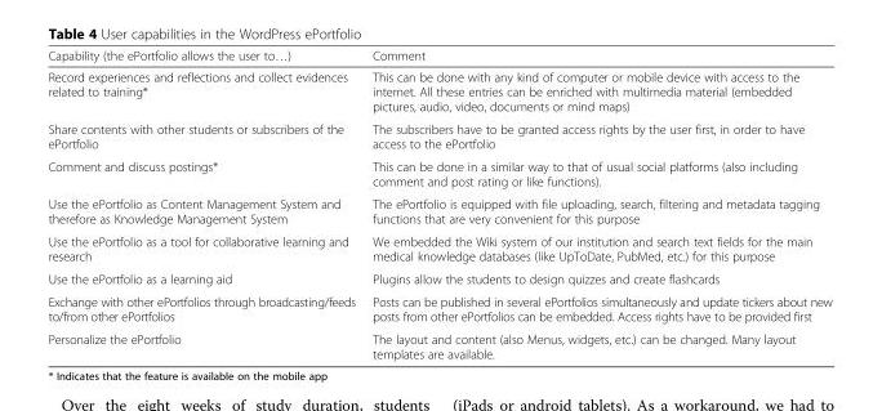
<table><thead><tr><td>Capability (the ePortfolio allows the user to…)</td><td>Comment</td></tr></thead><tbody><tr><td>Record experiences and reflections and collect evidences related to training*</td><td>This can be done with any kind of computer or mobile device with access to the internet. All these entries can be enriched with multimedia material (embedded pictures, audio, video, documents or mind maps)</td></tr><tr><td>Share contents with other students or subscribers of the ePortfolio</td><td>The subscribers have to be granted access rights by the user first, in order to have access to the ePortfolio</td></tr><tr><td>Comment and discuss postings*</td><td>This can be done in a similar way to that of usual social platforms (also including comment and post rating or like functions).</td></tr><tr><td>Use the ePortfolio as Content Management System and therefore as Knowledge Management System</td><td>The ePortfolio is equipped with file uploading, search, filtering and metadata tagging functions that are very convenient for this purpose</td></tr><tr><td>Use the ePortfolio as a tool for collaborative learning and research</td><td>We embedded the Wiki system of our institution and search text fields for the main medical knowledge databases (like UpToDate, PubMed, etc.) for this purpose</td></tr><tr><td>Use the ePortfolio as a learning aid</td><td>Plugins allow the students to design quizzes and create flashcards</td></tr><tr><td>Exchange with other ePortfolios through broadcasting/feeds to/from other ePortfolios</td><td>Posts can be published in several ePortfolios simultaneously and update tickers about new posts from other ePortfolios can be embedded. Access rights have to be provided first</td></tr><tr><td>Personalize the ePortfolio</td><td>The layout and content (also Menus, widgets, etc.) can be changed. Many layout templates are available.</td></tr></tbody></table>